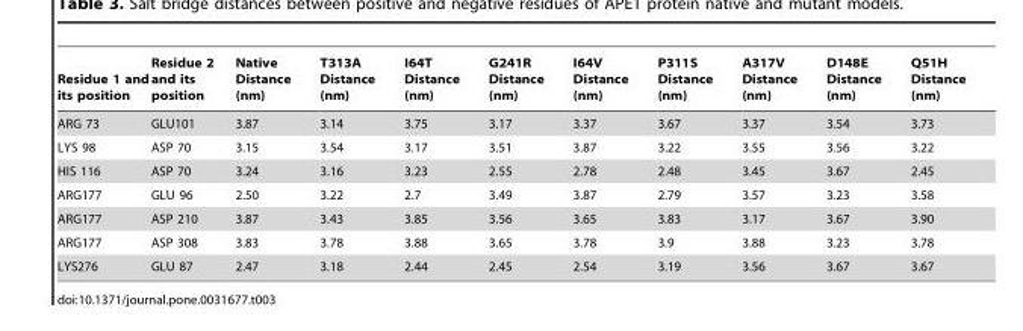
<table><thead><tr><td>Residue 1 and its position</td><td>Residue 2 and its position</td><td>Native Distance (nm)</td><td>T313A Distance (nm)</td><td>I64T Distance (nm)</td><td>G241R Distance (nm)</td><td>I64V Distance (nm)</td><td>P311S Distance (nm)</td><td>A317V Distance (nm)</td><td>D148E Distance (nm)</td><td>Q51H Distance (nm)</td></tr></thead><tbody><tr><td>ARG 73</td><td>GLU101</td><td>3.87</td><td>3.14</td><td>3.75</td><td>3.17</td><td>3.37</td><td>3.67</td><td>3.37</td><td>3.54</td><td>3.73</td></tr><tr><td>LYS 98</td><td>ASP 70</td><td>3.15</td><td>3.54</td><td>3.17</td><td>3.51</td><td>3.87</td><td>3.22</td><td>3.55</td><td>3.56</td><td>3.22</td></tr><tr><td>HIS 116</td><td>ASP 70</td><td>3.24</td><td>3.16</td><td>3.23</td><td>2.55</td><td>2.78</td><td>2.48</td><td>3.45</td><td>3.67</td><td>2.45</td></tr><tr><td>ARG177</td><td>GLU 96</td><td>2.50</td><td>3.22</td><td>2.7</td><td>3.49</td><td>3.87</td><td>2.79</td><td>3.57</td><td>3.23</td><td>3.58</td></tr><tr><td>ARG177</td><td>ASP 210</td><td>3.87</td><td>3.43</td><td>3.85</td><td>3.56</td><td>3.65</td><td>3.83</td><td>3.17</td><td>3.67</td><td>3.90</td></tr><tr><td>ARG177</td><td>ASP 308</td><td>3.83</td><td>3.78</td><td>3.88</td><td>3.65</td><td>3.78</td><td>3.9</td><td>3.88</td><td>3.23</td><td>3.78</td></tr><tr><td>LYS276</td><td>GLU 87</td><td>2.47</td><td>3.18</td><td>2.44</td><td>2.45</td><td>2.54</td><td>3.19</td><td>3.56</td><td>3.67</td><td>3.67</td></tr></tbody></table>